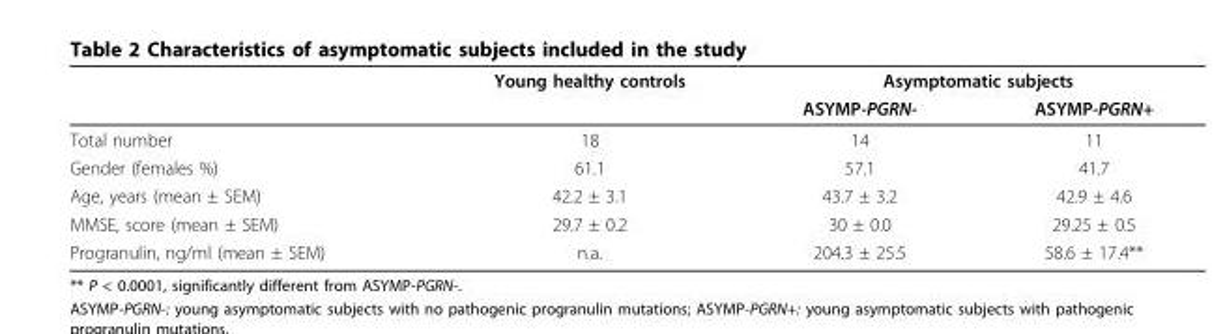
<table><thead><tr><td rowspan="2"></td><td rowspan="2">Young healthy controls</td><td colspan="2">Asymptomatic subjects</td></tr><tr><td>ASYMP-PGRN-</td><td>ASYMP-PGRN+</td></tr></thead><tbody><tr><td>Total number</td><td>18</td><td>14</td><td>11</td></tr><tr><td>Gender (females %)</td><td>61.1</td><td>57.1</td><td>41.7</td></tr><tr><td>Age, years (mean ± SEM)</td><td>42.2 ± 3.1</td><td>43.7 ± 3.2</td><td>42.9 ± 4.6</td></tr><tr><td>MMSE, score (mean ± SEM)</td><td>29.7 ± 0.2</td><td>30 ± 0.0</td><td>29.25 ± 0.5</td></tr><tr><td>Progranulin, ng/ml (mean ± SEM)</td><td>n.a.</td><td>204.3 ± 25.5</td><td>58.6 ± 17.4**</td></tr></tbody></table>